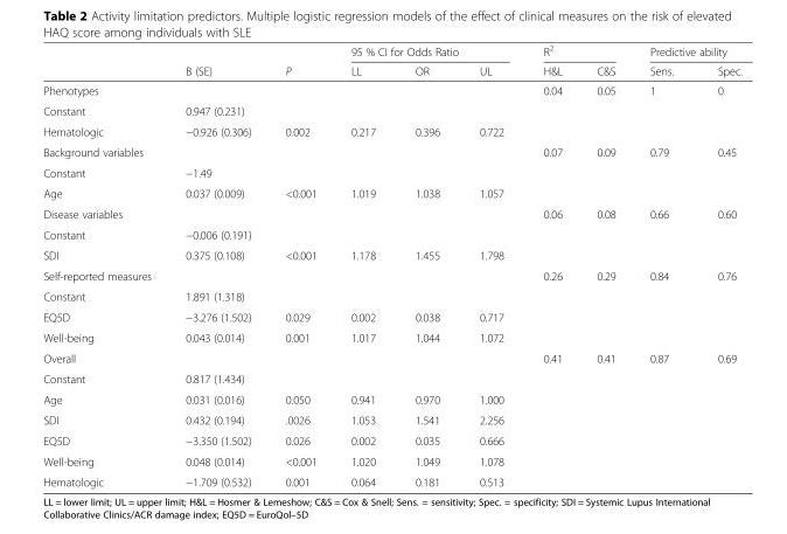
<table><thead><tr><td rowspan="2"></td><td rowspan="2">B (SE)</td><td rowspan="2">P</td><td colspan="3">95 % CI for Odds Ratio</td><td colspan="2">R<sup>2</sup></td><td colspan="2">Predictive ability</td></tr><tr><td>LL</td><td>OR</td><td>UL</td><td>H&amp;L</td><td>C&amp;S</td><td>Sens.</td><td>Spec.</td></tr></thead><tbody><tr><td>Phenotypes</td><td></td><td></td><td></td><td></td><td></td><td>0.04</td><td>0.05</td><td>1</td><td>0</td></tr><tr><td>Constant</td><td>0.947 (0.231)</td><td></td><td></td><td></td><td></td><td></td><td></td><td></td><td></td></tr><tr><td>Hematologic</td><td>−0.926 (0.306)</td><td>0.002</td><td>0.217</td><td>0.396</td><td>0.722</td><td></td><td></td><td></td><td></td></tr><tr><td>Background variables</td><td></td><td></td><td></td><td></td><td></td><td>0.07</td><td>0.09</td><td>0.79</td><td>0.45</td></tr><tr><td>Constant</td><td>−1.49</td><td></td><td></td><td></td><td></td><td></td><td></td><td></td><td></td></tr><tr><td>Age</td><td>0.037 (0.009)</td><td>&lt;0.001</td><td>1.019</td><td>1.038</td><td>1.057</td><td></td><td></td><td></td><td></td></tr><tr><td>Disease variables</td><td></td><td></td><td></td><td></td><td></td><td>0.06</td><td>0.08</td><td>0.66</td><td>0.60</td></tr><tr><td>Constant</td><td>−0.006 (0.191)</td><td></td><td></td><td></td><td></td><td></td><td></td><td></td><td></td></tr><tr><td>SDI</td><td>0.375 (0.108)</td><td>&lt;0.001</td><td>1.178</td><td>1.455</td><td>1.798</td><td></td><td></td><td></td><td></td></tr><tr><td>Self-reported measures</td><td></td><td></td><td></td><td></td><td></td><td>0.26</td><td>0.29</td><td>0.84</td><td>0.76</td></tr><tr><td>Constant</td><td>1.891 (1.318)</td><td></td><td></td><td></td><td></td><td></td><td></td><td></td><td></td></tr><tr><td>EQ5D</td><td>−3.276 (1.502)</td><td>0.029</td><td>0.002</td><td>0.038</td><td>0.717</td><td></td><td></td><td></td><td></td></tr><tr><td>Well-being</td><td>0.043 (0.014)</td><td>0.001</td><td>1.017</td><td>1.044</td><td>1.072</td><td></td><td></td><td></td><td></td></tr><tr><td>Overall</td><td></td><td></td><td></td><td></td><td></td><td>0.41</td><td>0.41</td><td>0.87</td><td>0.69</td></tr><tr><td>Constant</td><td>0.817 (1.434)</td><td></td><td></td><td></td><td></td><td></td><td></td><td></td><td></td></tr><tr><td>Age</td><td>0.031 (0.016)</td><td>0.050</td><td>0.941</td><td>0.970</td><td>1.000</td><td></td><td></td><td></td><td></td></tr><tr><td>SDI</td><td>0.432 (0.194)</td><td>.0026</td><td>1.053</td><td>1.541</td><td>2.256</td><td></td><td></td><td></td><td></td></tr><tr><td>EQ5D</td><td>−3.350 (1.502)</td><td>0.026</td><td>0.002</td><td>0.035</td><td>0.666</td><td></td><td></td><td></td><td></td></tr><tr><td>Well-being</td><td>0.048 (0.014)</td><td>&lt;0.001</td><td>1.020</td><td>1.049</td><td>1.078</td><td></td><td></td><td></td><td></td></tr><tr><td>Hematologic</td><td>−1.709 (0.532)</td><td>0.001</td><td>0.064</td><td>0.181</td><td>0.513</td><td></td><td></td><td></td><td></td></tr></tbody></table>